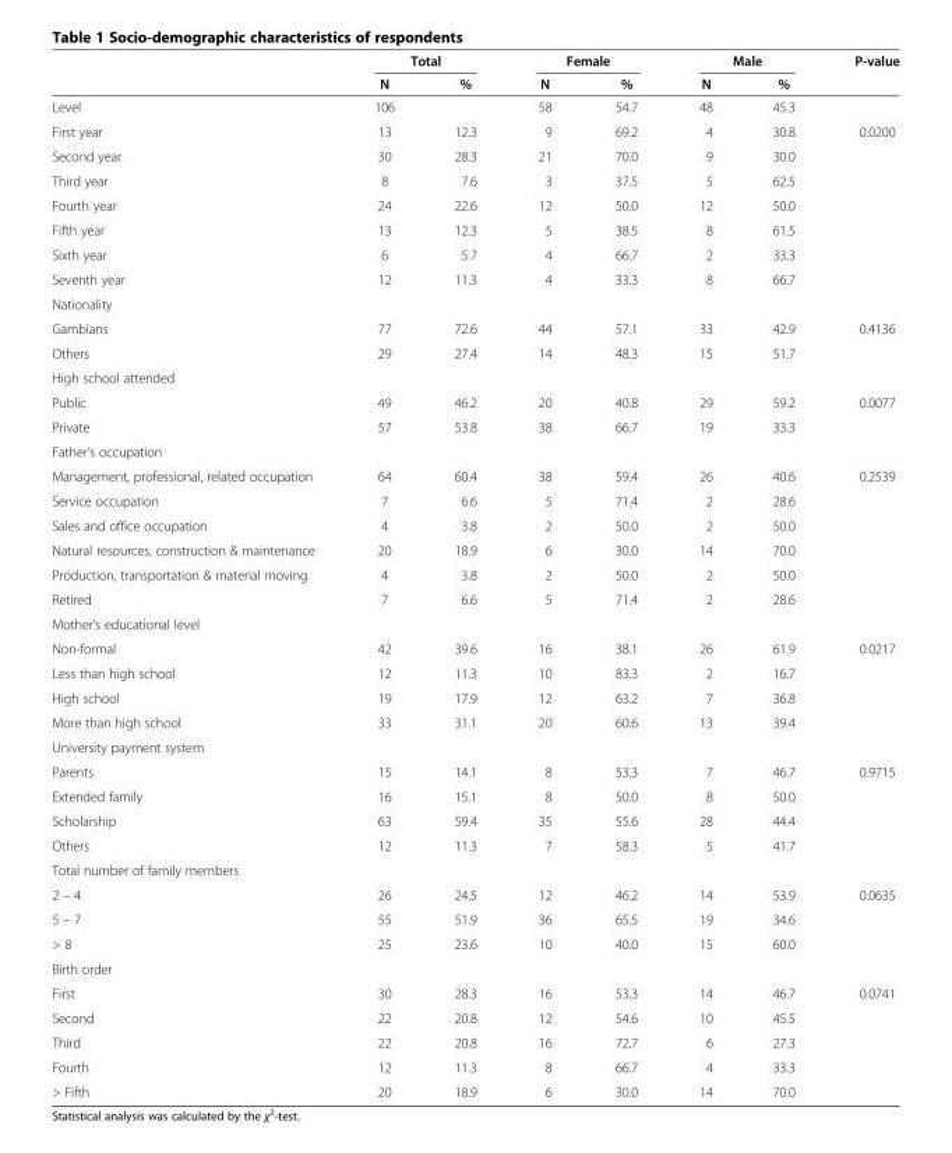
<table><thead><tr><td rowspan="2"></td><td colspan="2">Total</td><td colspan="2">Female</td><td colspan="2">Male</td><td rowspan="2">P-value</td></tr><tr><td>N</td><td>%</td><td>N</td><td>%</td><td>N</td><td>%</td></tr></thead><tbody><tr><td>Level</td><td>106</td><td></td><td>58</td><td>54.7</td><td>48</td><td>45.3</td><td></td></tr><tr><td>First year</td><td>13</td><td>12.3</td><td>9</td><td>69.2</td><td>4</td><td>30.8</td><td>0.0200</td></tr><tr><td>Second year</td><td>30</td><td>28.3</td><td>21</td><td>70.0</td><td>9</td><td>30.0</td><td></td></tr><tr><td>Third year</td><td>8</td><td>7.6</td><td>3</td><td>37.5</td><td>5</td><td>62.5</td><td></td></tr><tr><td>Fourth year</td><td>24</td><td>22.6</td><td>12</td><td>50.0</td><td>12</td><td>50.0</td><td></td></tr><tr><td>Fifth year</td><td>13</td><td>12.3</td><td>5</td><td>38.5</td><td>8</td><td>61.5</td><td></td></tr><tr><td>Sixth year</td><td>6</td><td>5.7</td><td>4</td><td>66.7</td><td>2</td><td>33.3</td><td></td></tr><tr><td>Seventh year</td><td>12</td><td>11.3</td><td>4</td><td>33.3</td><td>8</td><td>66.7</td><td></td></tr><tr><td colspan="8">Nationality</td></tr><tr><td>Gambians</td><td>77</td><td>72.6</td><td>44</td><td>57.1</td><td>33</td><td>42.9</td><td>0.4136</td></tr><tr><td>Others</td><td>29</td><td>27.4</td><td>14</td><td>48.3</td><td>15</td><td>51.7</td><td></td></tr><tr><td colspan="8">High school attended</td></tr><tr><td>Public</td><td>49</td><td>46.2</td><td>20</td><td>40.8</td><td>29</td><td>59.2</td><td>0.0077</td></tr><tr><td>Private</td><td>57</td><td>53.8</td><td>38</td><td>66.7</td><td>19</td><td>33.3</td><td></td></tr><tr><td colspan="8">Father’s occupation</td></tr><tr><td>Management, professional, related occupation</td><td>64</td><td>60.4</td><td>38</td><td>59.4</td><td>26</td><td>40.6</td><td>0.2539</td></tr><tr><td>Service occupation</td><td>7</td><td>6.6</td><td>5</td><td>71.4</td><td>2</td><td>28.6</td><td></td></tr><tr><td>Sales and office occupation</td><td>4</td><td>3.8</td><td>2</td><td>50.0</td><td>2</td><td>50.0</td><td></td></tr><tr><td>Natural resources, construction &amp; maintenance</td><td>20</td><td>18.9</td><td>6</td><td>30.0</td><td>14</td><td>70.0</td><td></td></tr><tr><td>Production, transportation &amp; material moving</td><td>4</td><td>3.8</td><td>2</td><td>50.0</td><td>2</td><td>50.0</td><td></td></tr><tr><td>Retired</td><td>7</td><td>6.6</td><td>5</td><td>71.4</td><td>2</td><td>28.6</td><td></td></tr><tr><td colspan="8">Mother’s educational level</td></tr><tr><td>Non-formal</td><td>42</td><td>39.6</td><td>16</td><td>38.1</td><td>26</td><td>61.9</td><td>0.0217</td></tr><tr><td>Less than high school</td><td>12</td><td>11.3</td><td>10</td><td>83.3</td><td>2</td><td>16.7</td><td></td></tr><tr><td>High school</td><td>19</td><td>17.9</td><td>12</td><td>63.2</td><td>7</td><td>36.8</td><td></td></tr><tr><td>More than high school</td><td>33</td><td>31.1</td><td>20</td><td>60.6</td><td>13</td><td>39.4</td><td></td></tr><tr><td colspan="8">University payment system</td></tr><tr><td>Parents</td><td>15</td><td>14.1</td><td>8</td><td>53.3</td><td>7</td><td>46.7</td><td>0.9715</td></tr><tr><td>Extended family</td><td>16</td><td>15.1</td><td>8</td><td>50.0</td><td>8</td><td>50.0</td><td></td></tr><tr><td>Scholarship</td><td>63</td><td>59.4</td><td>35</td><td>55.6</td><td>28</td><td>44.4</td><td></td></tr><tr><td>Others</td><td>12</td><td>11.3</td><td>7</td><td>58.3</td><td>5</td><td>41.7</td><td></td></tr><tr><td colspan="8">Total number of family members</td></tr><tr><td>2 – 4</td><td>26</td><td>24.5</td><td>12</td><td>46.2</td><td>14</td><td>53.9</td><td>0.0635</td></tr><tr><td>5 – 7</td><td>55</td><td>51.9</td><td>36</td><td>65.5</td><td>19</td><td>34.6</td><td></td></tr><tr><td>&gt; 8</td><td>25</td><td>23.6</td><td>10</td><td>40.0</td><td>15</td><td>60.0</td><td></td></tr><tr><td colspan="8">Birth order</td></tr><tr><td>First</td><td>30</td><td>28.3</td><td>16</td><td>53.3</td><td>14</td><td>46.7</td><td>0.0741</td></tr><tr><td>Second</td><td>22</td><td>20.8</td><td>12</td><td>54.6</td><td>10</td><td>45.5</td><td></td></tr><tr><td>Third</td><td>22</td><td>20.8</td><td>16</td><td>72.7</td><td>6</td><td>27.3</td><td></td></tr><tr><td>Fourth</td><td>12</td><td>11.3</td><td>8</td><td>66.7</td><td>4</td><td>33.3</td><td></td></tr><tr><td>&gt; Fifth</td><td>20</td><td>18.9</td><td>6</td><td>30.0</td><td>14</td><td>70.0</td><td></td></tr></tbody></table>